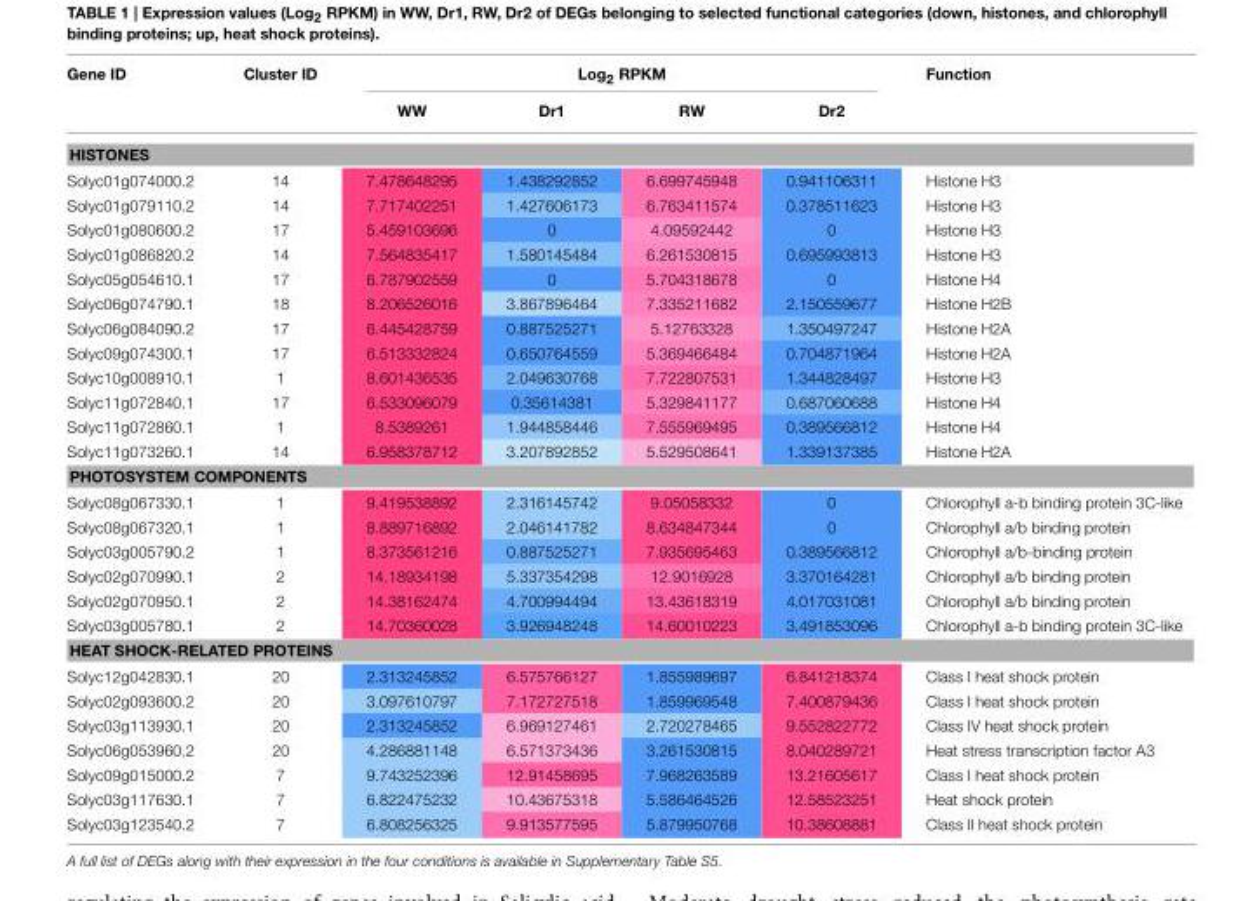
<table><thead><tr><td rowspan="2">Gene ID</td><td rowspan="2">Cluster ID</td><td colspan="4">Log<sub>2</sub> RPKM</td><td rowspan="2">Function</td></tr><tr><td>WW</td><td>Dr1</td><td>RW</td><td>Dr2</td></tr></thead><tbody><tr><td colspan="7">HISTONES</td></tr><tr><td>Solyc01g074000.2</td><td>14</td><td>7.478648295</td><td>1.438292852</td><td>6.699745948</td><td>0.941106311</td><td>Histone H3</td></tr><tr><td>Solyc01g079110.2</td><td>14</td><td>7.717402251</td><td>1.427606173</td><td>6.763411574</td><td>0.378511623</td><td>Histone H3</td></tr><tr><td>Solyc01g080600.2</td><td>17</td><td>5.459103696</td><td>0</td><td>4.09592442</td><td>0</td><td>Histone H3</td></tr><tr><td>Solyc01g086820.2</td><td>14</td><td>7.564835417</td><td>1.580145484</td><td>6.261530815</td><td>0.695993813</td><td>Histone H3</td></tr><tr><td>Solyc05g054610.1</td><td>17</td><td>6.787902559</td><td>0</td><td>5.704318678</td><td>0</td><td>Histone H4</td></tr><tr><td>Solyc06g074790.1</td><td>18</td><td>8.206526016</td><td>3.867896464</td><td>7.335211682</td><td>2.150559677</td><td>Histone H2B</td></tr><tr><td>Solyc06g084090.2</td><td>17</td><td>6.445428759</td><td>0.887525271</td><td>5.12763328</td><td>1.350497247</td><td>Histone H2A</td></tr><tr><td>Solyc09g074300.1</td><td>17</td><td>6.513332824</td><td>0.650764559</td><td>5.369466484</td><td>0.704871964</td><td>Histone H2A</td></tr><tr><td>Solyc10g008910.1</td><td>1</td><td>8.601436535</td><td>2.049630768</td><td>7.722807531</td><td>1.344828497</td><td>Histone H3</td></tr><tr><td>Solyc11g072840.1</td><td>17</td><td>6.533096079</td><td>0.35614381</td><td>5.329841177</td><td>0.687060688</td><td>Histone H4</td></tr><tr><td>Solyc11g072860.1</td><td>1</td><td>8.5389261</td><td>1.944858446</td><td>7.555969495</td><td>0.389566812</td><td>Histone H4</td></tr><tr><td>Solyc11g073260.1</td><td>14</td><td>6.958378712</td><td>3.207892852</td><td>5.529508641</td><td>1.339137385</td><td>Histone H2A</td></tr><tr><td colspan="7">PHOTOSYSTEM COMPONENTS</td></tr><tr><td>Solyc08g067330.1</td><td>1</td><td>9.419538892</td><td>2.316145742</td><td>9.05058332</td><td>0</td><td>Chlorophyll a-b binding protein 3C-like</td></tr><tr><td>Solyc08g067320.1</td><td>1</td><td>8.889716892</td><td>2.046141782</td><td>8.634847344</td><td>0</td><td>Chlorophyll a/b binding protein</td></tr><tr><td>Solyc03g005790.2</td><td>1</td><td>8.373561216</td><td>0.887525271</td><td>7.935695463</td><td>0.389566812</td><td>Chlorophyll a/b-binding protein</td></tr><tr><td>Solyc02g070990.1</td><td>2</td><td>14.18934198</td><td>5.337354298</td><td>12.9016928</td><td>3.370164281</td><td>Chlorophyll a/b binding protein</td></tr><tr><td>Solyc02g070950.1</td><td>2</td><td>14.38162474</td><td>4.700994494</td><td>13.43618319</td><td>4.017031081</td><td>Chlorophyll a/b binding protein</td></tr><tr><td>Solyc03g005780.1</td><td>2</td><td>14.70360028</td><td>3.926948248</td><td>14.60010223</td><td>3.491853096</td><td>Chlorophyll a-b binding protein 3C-like</td></tr><tr><td colspan="7">HEAT SHOCK-RELATED PROTEINS</td></tr><tr><td>Solyc12g042830.1</td><td>20</td><td>2.313245852</td><td>6.575766127</td><td>1.855989697</td><td>6.841218374</td><td>Class I heat shock protein</td></tr><tr><td>Solyc02g093600.2</td><td>20</td><td>3.097610797</td><td>7.172727518</td><td>1.859969548</td><td>7.400879436</td><td>Class I heat shock protein</td></tr><tr><td>Solyc03g113930.1</td><td>20</td><td>2.313245852</td><td>6.969127461</td><td>2.720278465</td><td>9.552822772</td><td>Class IV heat shock protein</td></tr><tr><td>Solyc06g053960.2</td><td>20</td><td>4.286881148</td><td>6.571373436</td><td>3.261530815</td><td>8.040289721</td><td>Heat stress transcription factor A3</td></tr><tr><td>Solyc09g015000.2</td><td>7</td><td>9.743252396</td><td>12.91458695</td><td>7.968263589</td><td>13.21605617</td><td>Class I heat shock protein</td></tr><tr><td>Solyc03g117630.1</td><td>7</td><td>6.822475232</td><td>10.43675318</td><td>5.586464526</td><td>12.58523251</td><td>Heat shock protein</td></tr><tr><td>Solyc03g123540.2</td><td>7</td><td>6.808256325</td><td>9.913577595</td><td>5.879950768</td><td>10.38608881</td><td>Class II heat shock protein</td></tr></tbody></table>